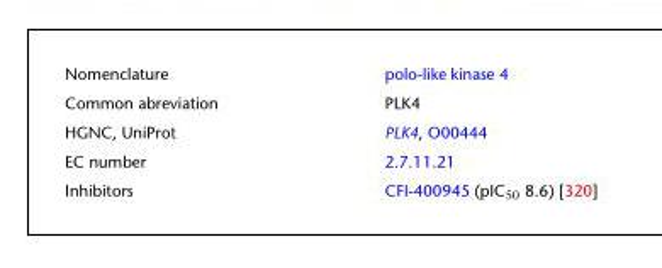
<table><tbody><tr><td>Nomenclature</td><td>polo-like kinase 4</td></tr><tr><td>Common abreviation</td><td>PLK4</td></tr><tr><td>HGNC, UniProt</td><td>PLK4, O00444</td></tr><tr><td>EC number</td><td>2.7.11.21</td></tr><tr><td>Inhibitors</td><td>CFI-400945 (pIC<sub>50</sub> 8.6) [320]</td></tr></tbody></table>